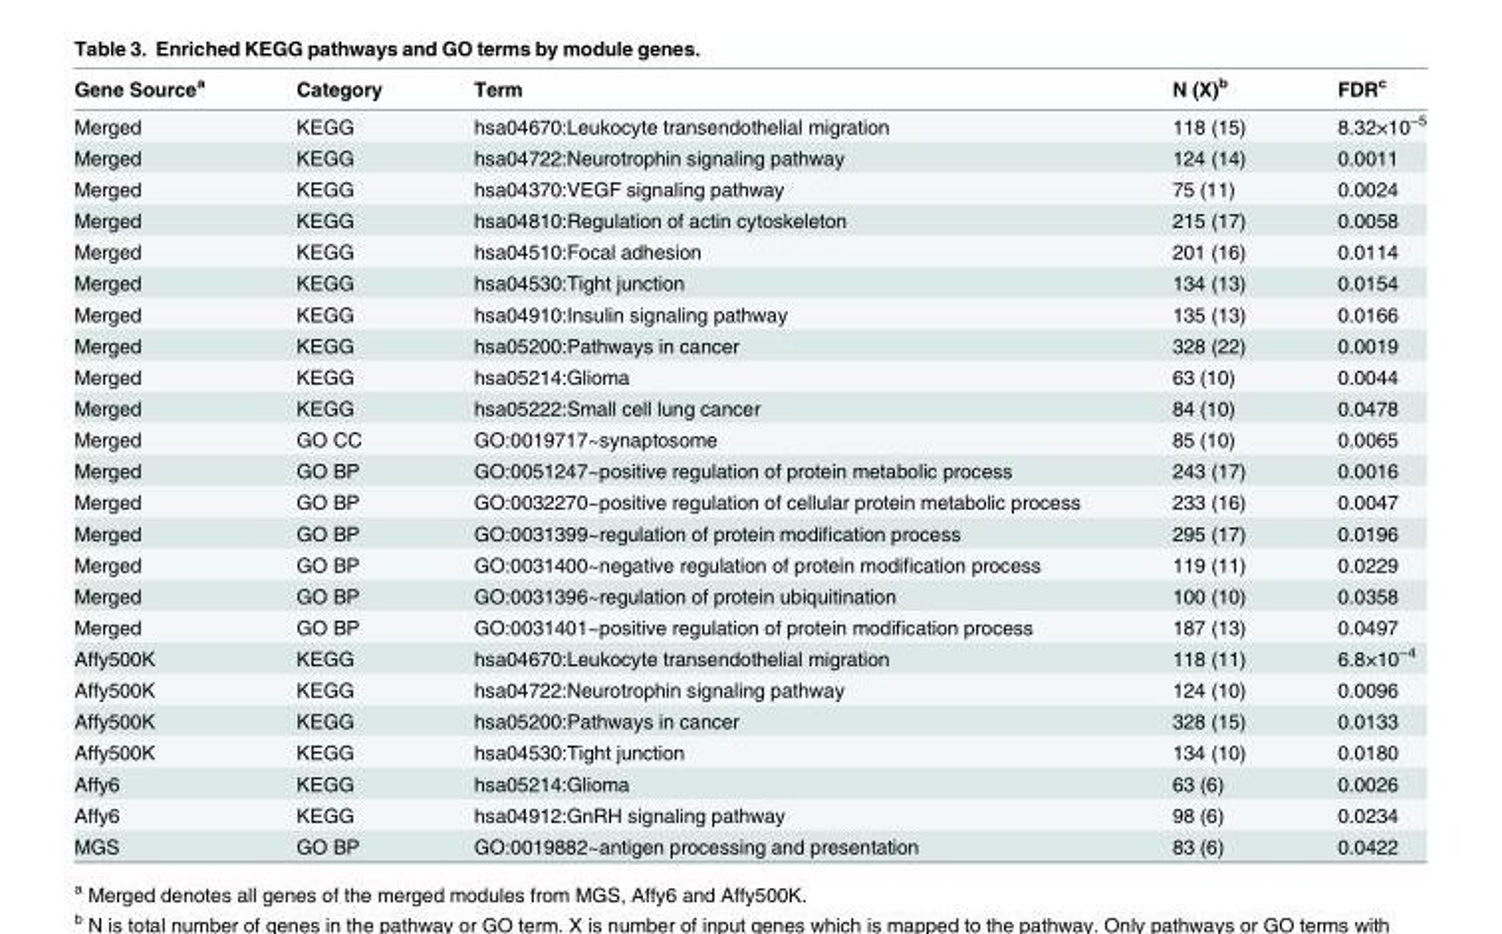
<table><thead><tr><td>Gene Source<sup>a</sup></td><td>Category</td><td>Term</td><td>N (X)<sup>b</sup></td><td>FDR<sup>c</sup></td></tr></thead><tbody><tr><td>Merged</td><td>KEGG</td><td>hsa04670:Leukocyte transendothelial migration</td><td>118 (15)</td><td>8.32×10<sup>−5</sup></td></tr><tr><td>Merged</td><td>KEGG</td><td>hsa04722:Neurotrophin signaling pathway</td><td>124 (14)</td><td>0.0011</td></tr><tr><td>Merged</td><td>KEGG</td><td>hsa04370:VEGF signaling pathway</td><td>75 (11)</td><td>0.0024</td></tr><tr><td>Merged</td><td>KEGG</td><td>hsa04810:Regulation of actin cytoskeleton</td><td>215 (17)</td><td>0.0058</td></tr><tr><td>Merged</td><td>KEGG</td><td>hsa04510:Focal adhesion</td><td>201 (16)</td><td>0.0114</td></tr><tr><td>Merged</td><td>KEGG</td><td>hsa04530:Tight junction</td><td>134 (13)</td><td>0.0154</td></tr><tr><td>Merged</td><td>KEGG</td><td>hsa04910:Insulin signaling pathway</td><td>135 (13)</td><td>0.0166</td></tr><tr><td>Merged</td><td>KEGG</td><td>hsa05200:Pathways in cancer</td><td>328 (22)</td><td>0.0019</td></tr><tr><td>Merged</td><td>KEGG</td><td>hsa05214:Glioma</td><td>63 (10)</td><td>0.0044</td></tr><tr><td>Merged</td><td>KEGG</td><td>hsa05222:Small cell lung cancer</td><td>84 (10)</td><td>0.0478</td></tr><tr><td>Merged</td><td>GO CC</td><td>GO:0019717~synaptosome</td><td>85 (10)</td><td>0.0065</td></tr><tr><td>Merged</td><td>GO BP</td><td>GO:0051247~positive regulation of protein metabolic process</td><td>243 (17)</td><td>0.0016</td></tr><tr><td>Merged</td><td>GO BP</td><td>GO:0032270~positive regulation of cellular protein metabolic process</td><td>233 (16)</td><td>0.0047</td></tr><tr><td>Merged</td><td>GO BP</td><td>GO:0031399~regulation of protein modification process</td><td>295 (17)</td><td>0.0196</td></tr><tr><td>Merged</td><td>GO BP</td><td>GO:0031400~negative regulation of protein modification process</td><td>119 (11)</td><td>0.0229</td></tr><tr><td>Merged</td><td>GO BP</td><td>GO:0031396~regulation of protein ubiquitination</td><td>100 (10)</td><td>0.0358</td></tr><tr><td>Merged</td><td>GO BP</td><td>GO:0031401~positive regulation of protein modification process</td><td>187 (13)</td><td>0.0497</td></tr><tr><td>Affy500K</td><td>KEGG</td><td>hsa04670:Leukocyte transendothelial migration</td><td>118 (11)</td><td>6.8×10<sup>−4</sup></td></tr><tr><td>Affy500K</td><td>KEGG</td><td>hsa04722:Neurotrophin signaling pathway</td><td>124 (10)</td><td>0.0096</td></tr><tr><td>Affy500K</td><td>KEGG</td><td>hsa05200:Pathways in cancer</td><td>328 (15)</td><td>0.0133</td></tr><tr><td>Affy500K</td><td>KEGG</td><td>hsa04530:Tight junction</td><td>134 (10)</td><td>0.0180</td></tr><tr><td>Affy6</td><td>KEGG</td><td>hsa05214:Glioma</td><td>63 (6)</td><td>0.0026</td></tr><tr><td>Affy6</td><td>KEGG</td><td>hsa04912:GnRH signaling pathway</td><td>98 (6)</td><td>0.0234</td></tr><tr><td>MGS</td><td>GO BP</td><td>GO:0019882~antigen processing and presentation</td><td>83 (6)</td><td>0.0422</td></tr></tbody></table>